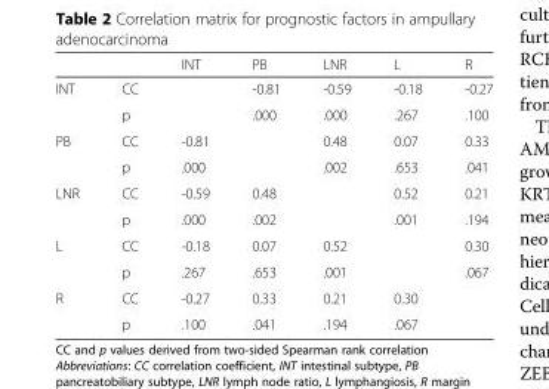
<table><thead><tr><td></td><td></td><td>INT</td><td>PB</td><td>LNR</td><td>L</td><td>R</td></tr></thead><tbody><tr><td rowspan="2">INT</td><td>CC</td><td></td><td>-0.81</td><td>-0.59</td><td>-0.18</td><td>-0.27</td></tr><tr><td>p</td><td></td><td>.000</td><td>.000</td><td>.267</td><td>.100</td></tr><tr><td rowspan="2">PB</td><td>CC</td><td>-0.81</td><td></td><td>0.48</td><td>0.07</td><td>0.33</td></tr><tr><td>p</td><td>.000</td><td></td><td>.002</td><td>.653</td><td>.041</td></tr><tr><td rowspan="2">LNR</td><td>CC</td><td>-0.59</td><td>0.48</td><td></td><td>0.52</td><td>0.21</td></tr><tr><td>p</td><td>.000</td><td>.002</td><td></td><td>.001</td><td>.194</td></tr><tr><td rowspan="2">L</td><td>CC</td><td>-0.18</td><td>0.07</td><td>0.52</td><td></td><td>0.30</td></tr><tr><td>p</td><td>.267</td><td>.653</td><td>.001</td><td></td><td>.067</td></tr><tr><td rowspan="2">R</td><td>CC</td><td>-0.27</td><td>0.33</td><td>0.21</td><td>0.30</td><td></td></tr><tr><td>p</td><td>.100</td><td>.041</td><td>.194</td><td>.067</td><td></td></tr></tbody></table>